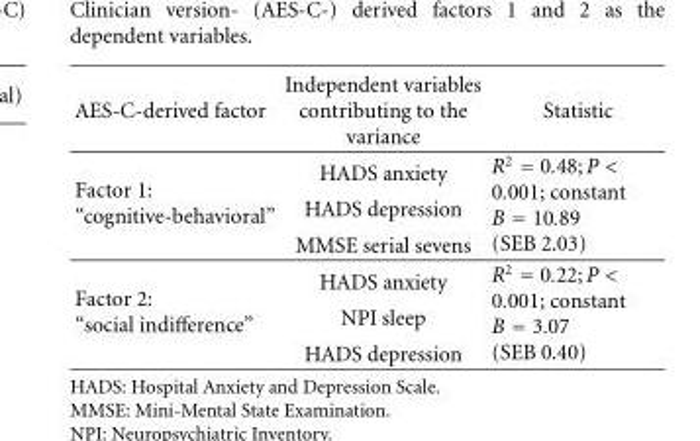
<table><thead><tr><td>AES-C-derived factor</td><td>Independent variables contributing to the variance</td><td>Statistic</td></tr></thead><tbody><tr><td rowspan="3">Factor 1: “cognitive-behavioral”</td><td>HADS anxiety</td><td rowspan="3">R<sup>2</sup> = 0.48;P &lt; 0.001; constant B = 10.89 (SEB 2.03)</td></tr><tr><td>HADS depression</td></tr><tr><td>MMSE serial sevens</td></tr><tr><td rowspan="3">Factor 2: “social indifference”</td><td>HADS anxiety</td><td rowspan="3">R<sup>2</sup> = 0.22;P &lt; 0.001; constant B = 3.07 (SEB 0.40)</td></tr><tr><td>NPI sleep</td></tr><tr><td>HADS depression</td></tr></tbody></table>